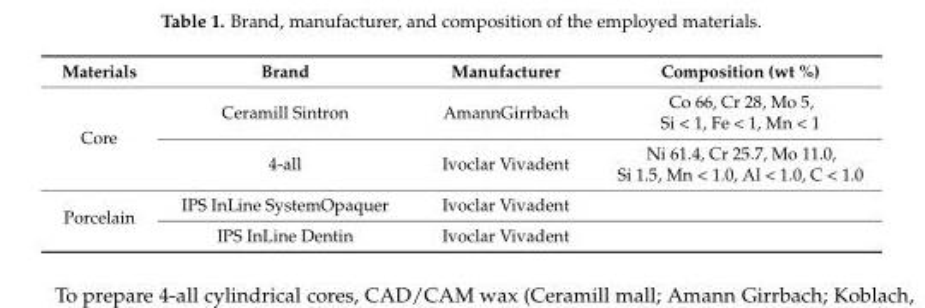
<table><thead><tr><td>Materials</td><td>Brand</td><td>Manufacturer</td><td>Composition (wt %)</td></tr></thead><tbody><tr><td rowspan="2">Core</td><td>Ceramill Sintron</td><td>AmannGirrbach</td><td>Co 66, Cr 28, Mo 5, Si &lt; 1, Fe &lt; 1, Mn &lt; 1</td></tr><tr><td>4-all</td><td>Ivoclar Vivadent</td><td>Ni 61.4, Cr 25.7, Mo 11.0, Si 1.5, Mn &lt; 1.0, Al &lt; 1.0, C &lt; 1.0</td></tr><tr><td rowspan="2">Porcelain</td><td>IPS InLine SystemOpaquer</td><td>Ivoclar Vivadent</td><td></td></tr><tr><td>IPS InLine Dentin</td><td>Ivoclar Vivadent</td><td></td></tr></tbody></table>